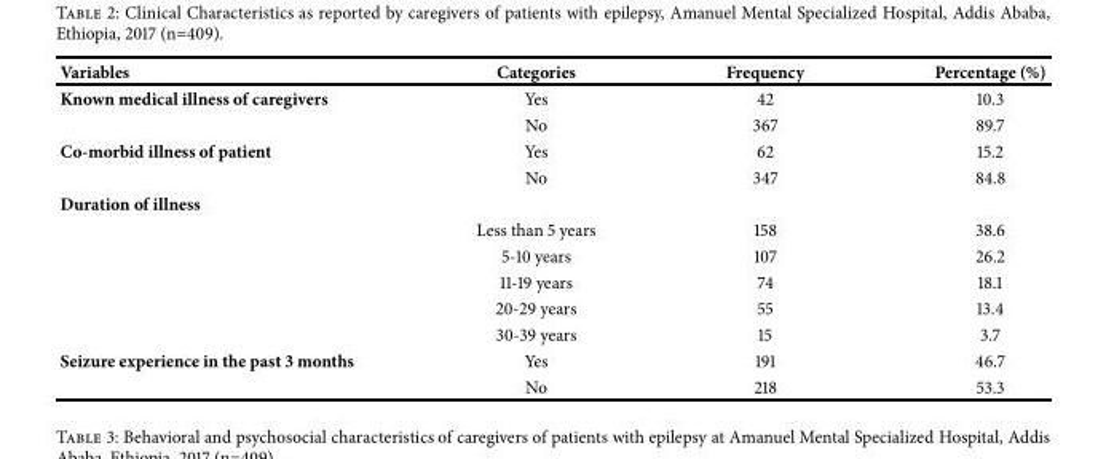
<table><thead><tr><td>Variables</td><td>Categories</td><td>Frequency</td><td>Percentage (%)</td></tr></thead><tbody><tr><td rowspan="2">Known medical illness of caregivers</td><td>Yes</td><td>42</td><td>10.3</td></tr><tr><td>No</td><td>367</td><td>89.7</td></tr><tr><td rowspan="2">Co-morbid illness of patient</td><td>Yes</td><td>62</td><td>15.2</td></tr><tr><td>No</td><td>347</td><td>84.8</td></tr><tr><td colspan="4">Duration of illness</td></tr><tr><td></td><td>Less than 5 years</td><td>158</td><td>38.6</td></tr><tr><td></td><td>5-10 years</td><td>107</td><td>26.2</td></tr><tr><td></td><td>11-19 years</td><td>74</td><td>18.1</td></tr><tr><td></td><td>20-29 years</td><td>55</td><td>13.4</td></tr><tr><td></td><td>30-39 years</td><td>15</td><td>3.7</td></tr><tr><td rowspan="2">Seizure experience in the past 3 months</td><td>Yes</td><td>191</td><td>46.7</td></tr><tr><td>No</td><td>218</td><td>53.3</td></tr></tbody></table>